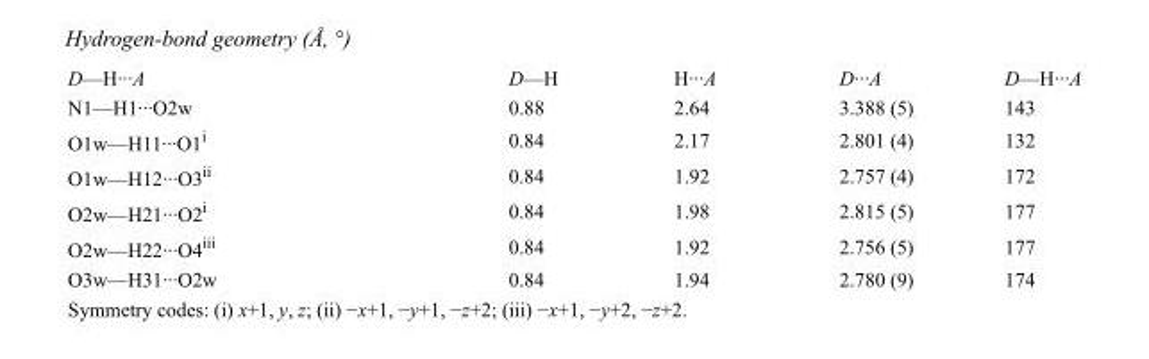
<table><tbody><tr><td>D—H···A</td><td>D—H</td><td>H···A</td><td>D···A</td><td>D—H···A</td></tr><tr><td>N1—H1···O2w</td><td>0.88</td><td>2.64</td><td>3.388 (5)</td><td>143</td></tr><tr><td>O1w—H11···O1<sup>i</sup></td><td>0.84</td><td>2.17</td><td>2.801 (4)</td><td>132</td></tr><tr><td>O1w—H12···O3<sup>ii</sup></td><td>0.84</td><td>1.92</td><td>2.757 (4)</td><td>172</td></tr><tr><td>O2w—H21···O2<sup>i</sup></td><td>0.84</td><td>1.98</td><td>2.815 (5)</td><td>177</td></tr><tr><td>O2w—H22···O4<sup>iii</sup></td><td>0.84</td><td>1.92</td><td>2.756 (5)</td><td>177</td></tr><tr><td>O3w—H31···O2w</td><td>0.84</td><td>1.94</td><td>2.780 (9)</td><td>174</td></tr></tbody></table>